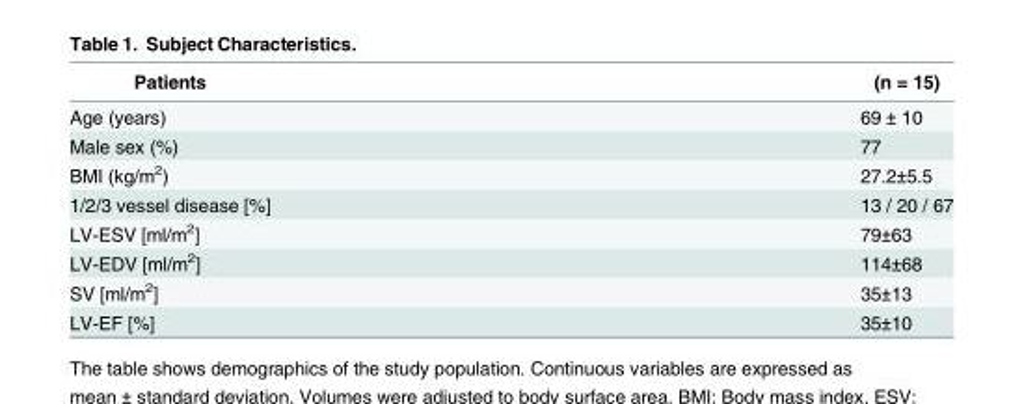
<table><thead><tr><td>Patients</td><td>(n = 15)</td></tr></thead><tbody><tr><td>Age (years)</td><td>69 ± 10</td></tr><tr><td>Male sex (%)</td><td>77</td></tr><tr><td>BMI (kg/m<sup>2</sup>)</td><td>27.2±5.5</td></tr><tr><td>1/2/3 vessel disease [%]</td><td>13 / 20 / 67</td></tr><tr><td>LV-ESV [ml/m<sup>2</sup>]</td><td>79±63</td></tr><tr><td>LV-EDV [ml/m<sup>2</sup>]</td><td>114±68</td></tr><tr><td>SV [ml/m<sup>2</sup>]</td><td>35±13</td></tr><tr><td>LV-EF [%]</td><td>35±10</td></tr></tbody></table>